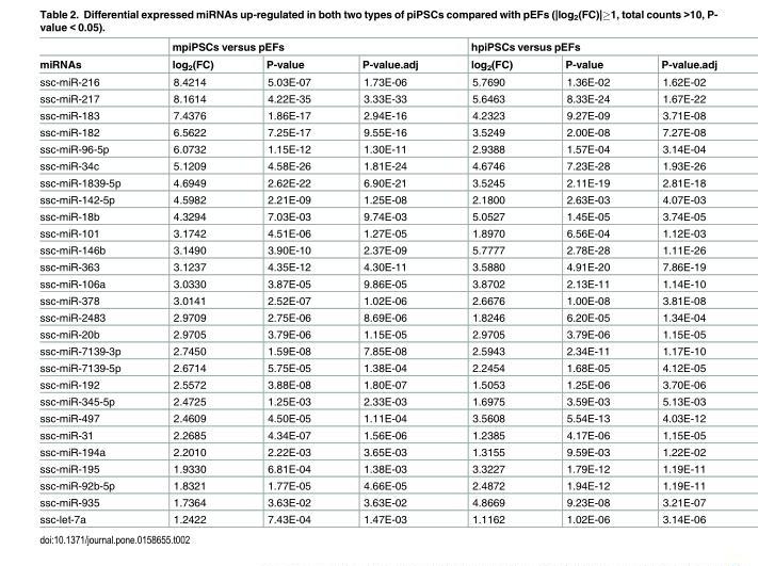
<table><thead><tr><td rowspan="2">miRNAs</td><td colspan="3">mpiPSCs versus pEFs</td><td colspan="3">hpiPSCs versus pEFs</td></tr><tr><td>log<sub>2</sub>(FC)</td><td>P-value</td><td>P-value.adj</td><td>log<sub>2</sub>(FC)</td><td>P-value</td><td>P-value.adj</td></tr></thead><tbody><tr><td>ssc-miR-216</td><td>8.4214</td><td>5.03E-07</td><td>1.73E-06</td><td>5.7690</td><td>1.36E-02</td><td>1.62E-02</td></tr><tr><td>ssc-miR-217</td><td>8.1614</td><td>4.22E-35</td><td>3.33E-33</td><td>5.6463</td><td>8.33E-24</td><td>1.67E-22</td></tr><tr><td>ssc-miR-183</td><td>7.4376</td><td>1.86E-17</td><td>2.94E-16</td><td>4.2323</td><td>9.27E-09</td><td>3.71E-08</td></tr><tr><td>ssc-miR-182</td><td>6.5622</td><td>7.25E-17</td><td>9.55E-16</td><td>3.5249</td><td>2.00E-08</td><td>7.27E-08</td></tr><tr><td>ssc-miR-96-5p</td><td>6.0732</td><td>1.15E-12</td><td>1.30E-11</td><td>2.9388</td><td>1.57E-04</td><td>3.14E-04</td></tr><tr><td>ssc-miR-34c</td><td>5.1209</td><td>4.58E-26</td><td>1.81E-24</td><td>4.6746</td><td>7.23E-28</td><td>1.93E-26</td></tr><tr><td>ssc-miR-1839-5p</td><td>4.6949</td><td>2.62E-22</td><td>6.90E-21</td><td>3.5245</td><td>2.11E-19</td><td>2.81E-18</td></tr><tr><td>ssc-miR-142-5p</td><td>4.5982</td><td>2.21E-09</td><td>1.25E-08</td><td>2.1800</td><td>2.63E-03</td><td>4.07E-03</td></tr><tr><td>ssc-miR-18b</td><td>4.3294</td><td>7.03E-03</td><td>9.74E-03</td><td>5.0527</td><td>1.45E-05</td><td>3.74E-05</td></tr><tr><td>ssc-miR-101</td><td>3.1742</td><td>4.51E-06</td><td>1.27E-05</td><td>1.8970</td><td>6.56E-04</td><td>1.12E-03</td></tr><tr><td>ssc-miR-146b</td><td>3.1490</td><td>3.90E-10</td><td>2.37E-09</td><td>5.7777</td><td>2.78E-28</td><td>1.11E-26</td></tr><tr><td>ssc-miR-363</td><td>3.1237</td><td>4.35E-12</td><td>4.30E-11</td><td>3.5880</td><td>4.91E-20</td><td>7.86E-19</td></tr><tr><td>ssc-miR-106a</td><td>3.0330</td><td>3.87E-05</td><td>9.86E-05</td><td>3.8702</td><td>2.13E-11</td><td>1.14E-10</td></tr><tr><td>ssc-miR-378</td><td>3.0141</td><td>2.52E-07</td><td>1.02E-06</td><td>2.6676</td><td>1.00E-08</td><td>3.81E-08</td></tr><tr><td>ssc-miR-2483</td><td>2.9709</td><td>2.75E-06</td><td>8.69E-06</td><td>1.8246</td><td>6.20E-05</td><td>1.34E-04</td></tr><tr><td>ssc-miR-20b</td><td>2.9705</td><td>3.79E-06</td><td>1.15E-05</td><td>2.9705</td><td>3.79E-06</td><td>1.15E-05</td></tr><tr><td>ssc-miR-7139-3p</td><td>2.7450</td><td>1.59E-08</td><td>7.85E-08</td><td>2.5943</td><td>2.34E-11</td><td>1.17E-10</td></tr><tr><td>ssc-miR-7139-5p</td><td>2.6714</td><td>5.75E-05</td><td>1.38E-04</td><td>2.2454</td><td>1.68E-05</td><td>4.12E-05</td></tr><tr><td>ssc-miR-192</td><td>2.5572</td><td>3.88E-08</td><td>1.80E-07</td><td>1.5053</td><td>1.25E-06</td><td>3.70E-06</td></tr><tr><td>ssc-miR-345-5p</td><td>2.4725</td><td>1.25E-03</td><td>2.33E-03</td><td>1.6975</td><td>3.59E-03</td><td>5.13E-03</td></tr><tr><td>ssc-miR-497</td><td>2.4609</td><td>4.50E-05</td><td>1.11E-04</td><td>3.5608</td><td>5.54E-13</td><td>4.03E-12</td></tr><tr><td>ssc-miR-31</td><td>2.2685</td><td>4.34E-07</td><td>1.56E-06</td><td>1.2385</td><td>4.17E-06</td><td>1.15E-05</td></tr><tr><td>ssc-miR-194a</td><td>2.2010</td><td>2.22E-03</td><td>3.65E-03</td><td>1.3155</td><td>9.59E-03</td><td>1.22E-02</td></tr><tr><td>ssc-miR-195</td><td>1.9330</td><td>6.81E-04</td><td>1.38E-03</td><td>3.3227</td><td>1.79E-12</td><td>1.19E-11</td></tr><tr><td>ssc-miR-92b-5p</td><td>1.8321</td><td>1.77E-05</td><td>4.66E-05</td><td>2.4872</td><td>1.94E-12</td><td>1.19E-11</td></tr><tr><td>ssc-miR-935</td><td>1.7364</td><td>3.63E-02</td><td>3.63E-02</td><td>4.8669</td><td>9.23E-08</td><td>3.21E-07</td></tr><tr><td>ssc-let-7a</td><td>1.2422</td><td>7.43E-04</td><td>1.47E-03</td><td>1.1162</td><td>1.02E-06</td><td>3.14E-06</td></tr></tbody></table>